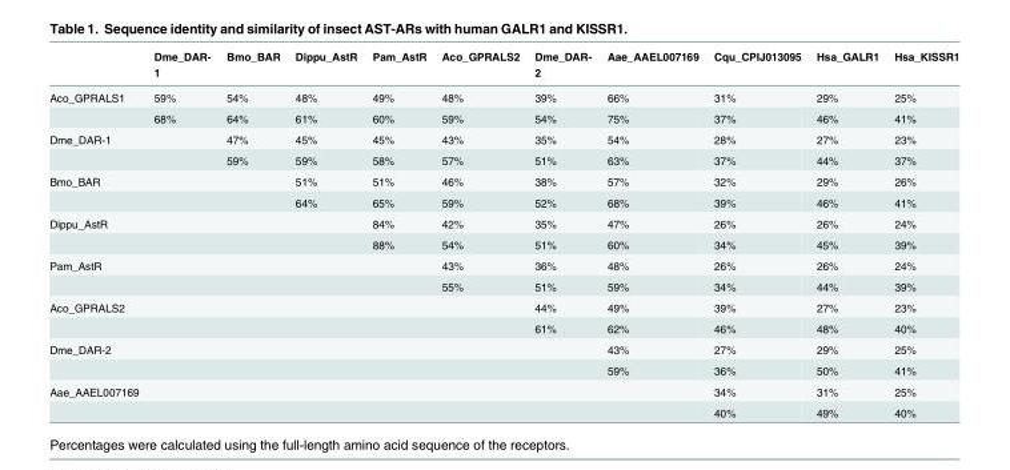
<table><thead><tr><td></td><td>Dme_DAR- 1</td><td>Bmo_BAR</td><td>Dippu_AstR</td><td>Pam_AstR</td><td>Aco_GPRALS2</td><td>Dme_DAR- 2</td><td>Aae_AAEL007169</td><td>Cqu_CPIJ013095</td><td>Hsa_GALR1</td><td>Hsa_KISSR1</td></tr></thead><tbody><tr><td rowspan="2">Aco_GPRALS1</td><td>59%</td><td>54%</td><td>48%</td><td>49%</td><td>48%</td><td>39%</td><td>66%</td><td>31%</td><td>29%</td><td>25%</td></tr><tr><td>68%</td><td>64%</td><td>61%</td><td>60%</td><td>59%</td><td>54%</td><td>75%</td><td>37%</td><td>46%</td><td>41%</td></tr><tr><td rowspan="2">Dme_DAR-1</td><td></td><td>47%</td><td>45%</td><td>45%</td><td>43%</td><td>35%</td><td>54%</td><td>28%</td><td>27%</td><td>23%</td></tr><tr><td></td><td>59%</td><td>59%</td><td>58%</td><td>57%</td><td>51%</td><td>63%</td><td>37%</td><td>44%</td><td>37%</td></tr><tr><td rowspan="2">Bmo_BAR</td><td></td><td></td><td>51%</td><td>51%</td><td>46%</td><td>38%</td><td>57%</td><td>32%</td><td>29%</td><td>26%</td></tr><tr><td></td><td></td><td>64%</td><td>65%</td><td>59%</td><td>52%</td><td>68%</td><td>39%</td><td>46%</td><td>41%</td></tr><tr><td rowspan="2">Dippu_AstR</td><td></td><td></td><td></td><td>84%</td><td>42%</td><td>35%</td><td>47%</td><td>26%</td><td>26%</td><td>24%</td></tr><tr><td></td><td></td><td></td><td>88%</td><td>54%</td><td>51%</td><td>60%</td><td>34%</td><td>45%</td><td>39%</td></tr><tr><td rowspan="2">Pam_AstR</td><td></td><td></td><td></td><td></td><td>43%</td><td>36%</td><td>48%</td><td>26%</td><td>26%</td><td>24%</td></tr><tr><td></td><td></td><td></td><td></td><td>55%</td><td>51%</td><td>59%</td><td>34%</td><td>44%</td><td>39%</td></tr><tr><td rowspan="2">Aco_GPRALS2</td><td></td><td></td><td></td><td></td><td></td><td>44%</td><td>49%</td><td>39%</td><td>27%</td><td>23%</td></tr><tr><td></td><td></td><td></td><td></td><td></td><td>61%</td><td>62%</td><td>46%</td><td>48%</td><td>40%</td></tr><tr><td rowspan="2">Dme_DAR-2</td><td></td><td></td><td></td><td></td><td></td><td></td><td>43%</td><td>27%</td><td>29%</td><td>25%</td></tr><tr><td></td><td></td><td></td><td></td><td></td><td></td><td>59%</td><td>36%</td><td>50%</td><td>41%</td></tr><tr><td rowspan="2">Aae_AAEL007169</td><td></td><td></td><td></td><td></td><td></td><td></td><td></td><td>34%</td><td>31%</td><td>25%</td></tr><tr><td></td><td></td><td></td><td></td><td></td><td></td><td></td><td>40%</td><td>49%</td><td>40%</td></tr></tbody></table>